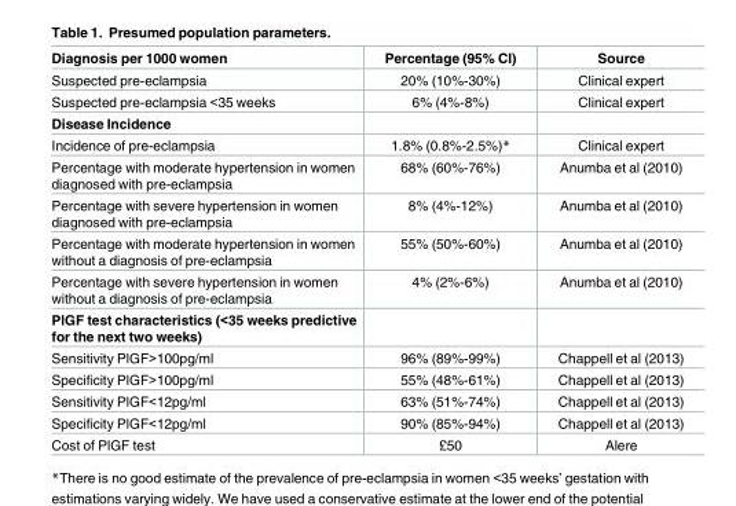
<table><thead><tr><td>Diagnosis per 1000 women</td><td>Percentage (95% CI)</td><td>Source</td></tr></thead><tbody><tr><td>Suspected pre-eclampsia</td><td>20% (10%-30%)</td><td>Clinical expert</td></tr><tr><td>Suspected pre-eclampsia &lt;35 weeks</td><td>6% (4%-8%)</td><td>Clinical expert</td></tr><tr><td colspan="3">Disease Incidence</td></tr><tr><td>Incidence of pre-eclampsia</td><td>1.8% (0.8%-2.5%)*</td><td>Clinical expert</td></tr><tr><td>Percentage with moderate hypertension in women diagnosed with pre-eclampsia</td><td>68% (60%-76%)</td><td>Anumba et al (2010)</td></tr><tr><td>Percentage with severe hypertension in women diagnosed with pre-eclampsia</td><td>8% (4%-12%)</td><td>Anumba et al (2010)</td></tr><tr><td>Percentage with moderate hypertension in women without a diagnosis of pre-eclampsia</td><td>55% (50%-60%)</td><td>Anumba et al (2010)</td></tr><tr><td>Percentage with severe hypertension in women without a diagnosis of pre-eclampsia</td><td>4% (2%-6%)</td><td>Anumba et al (2010)</td></tr><tr><td colspan="3">PlGF test characteristics (&lt;35 weeks predictive for the next two weeks)</td></tr><tr><td>Sensitivity PlGF&gt;100pg/ml</td><td>96% (89%-99%)</td><td>Chappell et al (2013)</td></tr><tr><td>Specificity PlGF&gt;100pg/ml</td><td>55% (48%-61%)</td><td>Chappell et al (2013)</td></tr><tr><td>Sensitivity PlGF&lt;12pg/ml</td><td>63% (51%-74%)</td><td>Chappell et al (2013)</td></tr><tr><td>Specificity PlGF&lt;12pg/ml</td><td>90% (85%-94%)</td><td>Chappell et al (2013)</td></tr><tr><td>Cost of PlGF test</td><td>£50</td><td>Alere</td></tr></tbody></table>